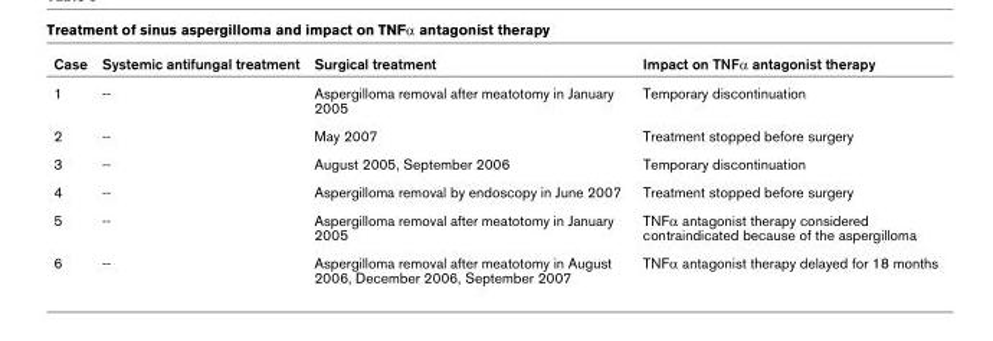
<table><thead><tr><td>Case</td><td>Systemic antifungal treatment</td><td>Surgical treatment</td><td>Impact on TNFα antagonist therapy</td></tr></thead><tbody><tr><td>1</td><td>--</td><td>Aspergilloma removal after meatotomy in January 2005</td><td>Temporary discontinuation</td></tr><tr><td>2</td><td>--</td><td>May 2007</td><td>Treatment stopped before surgery</td></tr><tr><td>3</td><td>--</td><td>August 2005, September 2006</td><td>Temporary discontinuation</td></tr><tr><td>4</td><td>--</td><td>Aspergilloma removal by endoscopy in June 2007</td><td>Treatment stopped before surgery</td></tr><tr><td>5</td><td>--</td><td>Aspergilloma removal after meatotomy in January 2005</td><td>TNFα antagonist therapy considered contraindicated because of the aspergilloma</td></tr><tr><td>6</td><td>--</td><td>Aspergilloma removal after meatotomy in August 2006, December 2006, September 2007</td><td>TNFα antagonist therapy delayed for 18 months</td></tr></tbody></table>